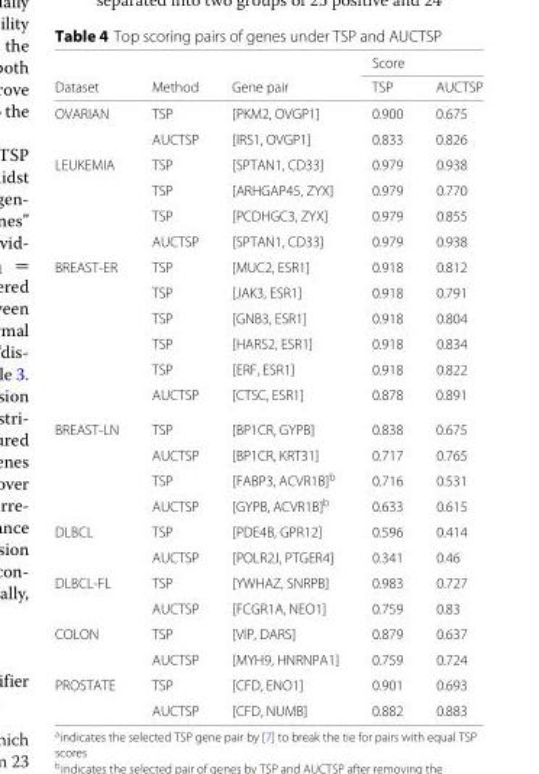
<table><thead><tr><td rowspan="2">Dataset</td><td rowspan="2">Method</td><td rowspan="2">Gene pair</td><td colspan="2">Score</td></tr><tr><td>TSP</td><td>AUCTSP</td></tr></thead><tbody><tr><td rowspan="2">OVARIAN</td><td>TSP</td><td>[PKM2, OVGP1]</td><td>0.900</td><td>0.675</td></tr><tr><td>AUCTSP</td><td>[IRS1, OVGP1]</td><td>0.833</td><td>0.826</td></tr><tr><td rowspan="4">LEUKEMIA</td><td>TSP</td><td>[SPTAN1, CD33]</td><td>0.979</td><td>0.938</td></tr><tr><td>TSP</td><td>[ARHGAP45, ZYX]</td><td>0.979</td><td>0.770</td></tr><tr><td>TSP</td><td>[PCDHGC3, ZYX]</td><td>0.979</td><td>0.855</td></tr><tr><td>AUCTSP</td><td>[SPTAN1, CD33]</td><td>0.979</td><td>0.938</td></tr><tr><td rowspan="6">BREAST-ER</td><td>TSP</td><td>[MUC2, ESR1]</td><td>0.918</td><td>0.812</td></tr><tr><td>TSP</td><td>[JAK3, ESR1]</td><td>0.918</td><td>0.791</td></tr><tr><td>TSP</td><td>[GNB3, ESR1]</td><td>0.918</td><td>0.804</td></tr><tr><td>TSP</td><td>[HARS2, ESR1]</td><td>0.918</td><td>0.834</td></tr><tr><td>TSP</td><td>[ERF, ESR1]</td><td>0.918</td><td>0.822</td></tr><tr><td>AUCTSP</td><td>[CTSC, ESR1]</td><td>0.878</td><td>0.891</td></tr><tr><td rowspan="4">BREAST-LN</td><td>TSP</td><td>[BP1CR, GYPB]</td><td>0.838</td><td>0.675</td></tr><tr><td>AUCTSP</td><td>[BP1CR, KRT31]</td><td>0.717</td><td>0.765</td></tr><tr><td>TSP</td><td>[FABP3, ACVR1B]<sup>b</sup></td><td>0.716</td><td>0.531</td></tr><tr><td>AUCTSP</td><td>[GYPB, ACVR1B]<sup>b</sup></td><td>0.633</td><td>0.615</td></tr><tr><td rowspan="2">DLBCL</td><td>TSP</td><td>[PDE4B, GPR12]</td><td>0.596</td><td>0.414</td></tr><tr><td>AUCTSP</td><td>[POLR2J, PTGER4]</td><td>0.341</td><td>0.46</td></tr><tr><td rowspan="2">DLBCL-FL</td><td>TSP</td><td>[YWHAZ, SNRPB]</td><td>0.983</td><td>0.727</td></tr><tr><td>AUCTSP</td><td>[FCGR1A, NEO1]</td><td>0.759</td><td>0.83</td></tr><tr><td rowspan="2">COLON</td><td>TSP</td><td>[VIP, DARS]</td><td>0.879</td><td>0.637</td></tr><tr><td>AUCTSP</td><td>[MYH9, HNRNPA1]</td><td>0.759</td><td>0.724</td></tr><tr><td rowspan="2">PROSTATE</td><td>TSP</td><td>[CFD, ENO1]</td><td>0.901</td><td>0.693</td></tr><tr><td>AUCTSP</td><td>[CFD, NUMB]</td><td>0.882</td><td>0.883</td></tr></tbody></table>